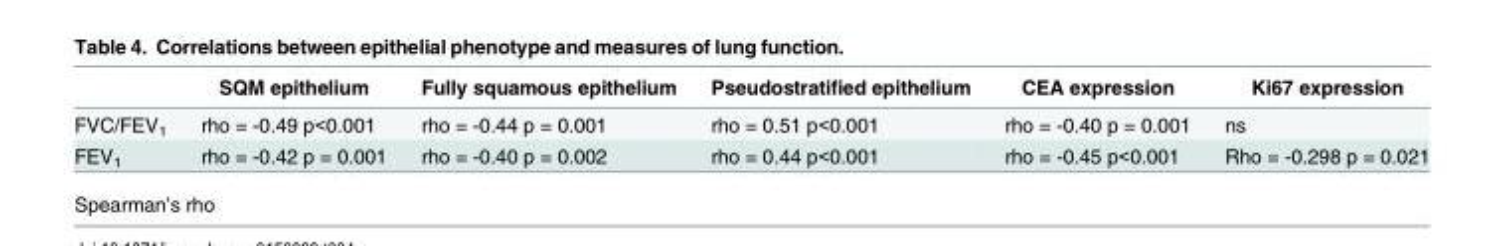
<table><thead><tr><td></td><td>SQM epithelium</td><td>Fully squamous epithelium</td><td>Pseudostratified epithelium</td><td>CEA expression</td><td>Ki67 expression</td></tr></thead><tbody><tr><td>FVC/FEV<sub>1</sub></td><td>rho = -0.49 p&lt;0.001</td><td>rho = -0.44 p = 0.001</td><td>rho = 0.51 p&lt;0.001</td><td>rho = -0.40 p = 0.001</td><td>ns</td></tr><tr><td>FEV<sub>1</sub></td><td>rho = -0.42 p = 0.001</td><td>rho = -0.40 p = 0.002</td><td>rho = 0.44 p&lt;0.001</td><td>rho = -0.45 p&lt;0.001</td><td>Rho = -0.298 p = 0.021</td></tr></tbody></table>